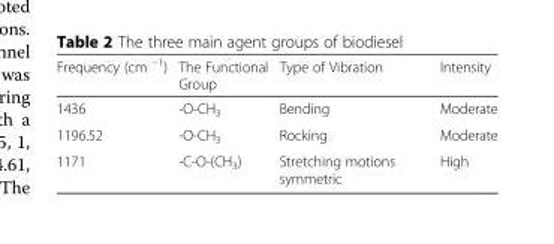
<table><thead><tr><td>Frequency (cm <sup>−1</sup>)</td><td>The Functional Group</td><td>Type of Vibration</td><td>Intensity</td></tr></thead><tbody><tr><td>1436</td><td>-O-CH<sub>3</sub></td><td>Bending</td><td>Moderate</td></tr><tr><td>1196.52</td><td>-O-CH<sub>3</sub></td><td>Rocking</td><td>Moderate</td></tr><tr><td>1171</td><td>-C-O-(CH<sub>3</sub>)</td><td>Stretching motions symmetric</td><td>High</td></tr></tbody></table>